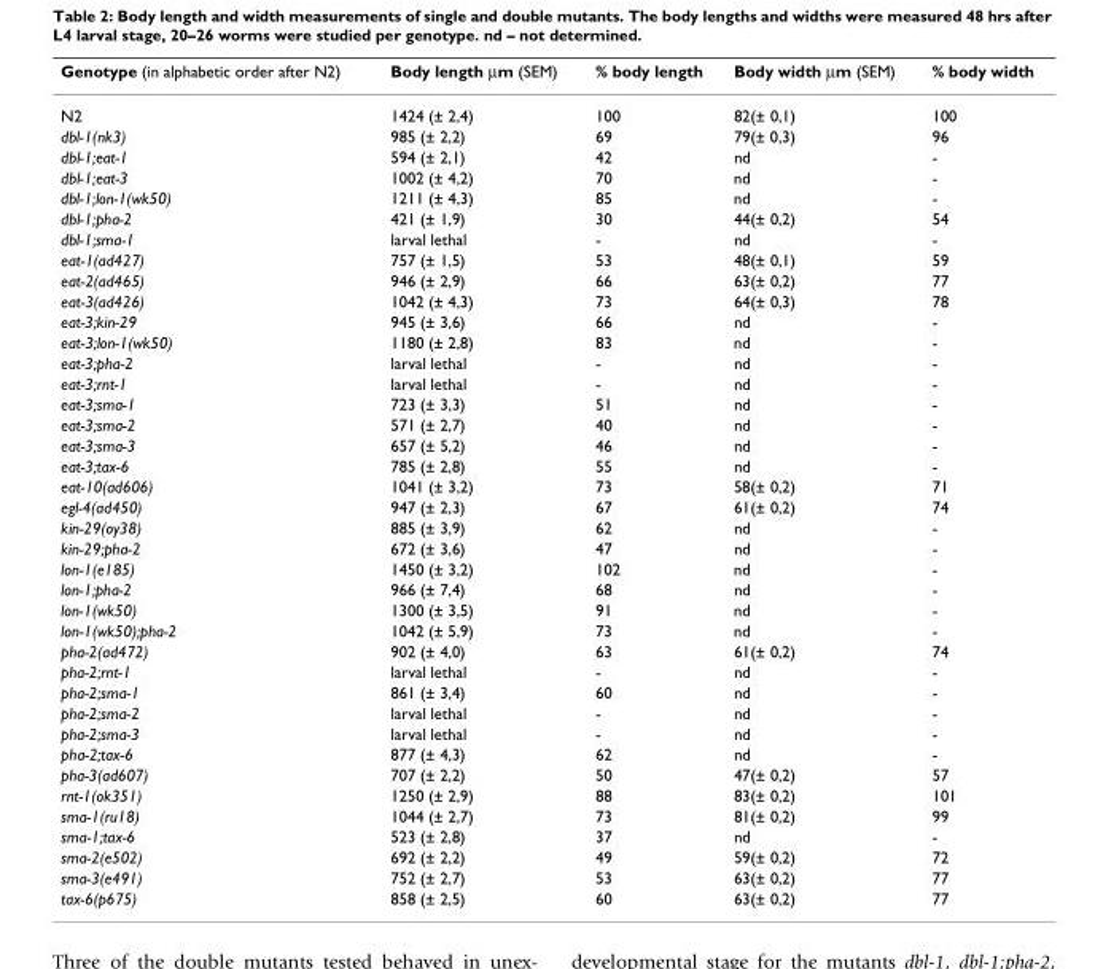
<table><thead><tr><td>Genotype (in alphabetic order after N2)</td><td>Body length μm (SEM)</td><td>% body length</td><td>Body width μm (SEM)</td><td>% body width</td></tr></thead><tbody><tr><td>N2</td><td>1424 (± 2,4)</td><td>100</td><td>82(± 0,1)</td><td>100</td></tr><tr><td>dbl-1(nk3)</td><td>985 (± 2,2)</td><td>69</td><td>79(± 0,3)</td><td>96</td></tr><tr><td>dbl-1;eat-1</td><td>594 (± 2,1)</td><td>42</td><td>nd</td><td>-</td></tr><tr><td>dbl-1;eat-3</td><td>1002 (± 4,2)</td><td>70</td><td>nd</td><td>-</td></tr><tr><td>dbl-1;lon-1(wk50)</td><td>1211 (± 4,3)</td><td>85</td><td>nd</td><td>-</td></tr><tr><td>dbl-1;pha-2</td><td>421 (± 1,9)</td><td>30</td><td>44(± 0,2)</td><td>54</td></tr><tr><td>dbl-1;sma-1</td><td>larval lethal</td><td>-</td><td>nd</td><td>-</td></tr><tr><td>eat-1(ad427)</td><td>757 (± 1,5)</td><td>53</td><td>48(± 0,1)</td><td>59</td></tr><tr><td>eat-2(ad465)</td><td>946 (± 2,9)</td><td>66</td><td>63(± 0,2)</td><td>77</td></tr><tr><td>eat-3(ad426)</td><td>1042 (± 4,3)</td><td>73</td><td>64(± 0,3)</td><td>78</td></tr><tr><td>eat-3;kin-29</td><td>945 (± 3,6)</td><td>66</td><td>nd</td><td>-</td></tr><tr><td>eat-3;lon-1(wk50)</td><td>1180 (± 2,8)</td><td>83</td><td>nd</td><td>-</td></tr><tr><td>eat-3;pha-2</td><td>larval lethal</td><td>-</td><td>nd</td><td>-</td></tr><tr><td>eat-3;rnt-1</td><td>larval lethal</td><td>-</td><td>nd</td><td>-</td></tr><tr><td>eat-3;sma-1</td><td>723 (± 3,3)</td><td>51</td><td>nd</td><td>-</td></tr><tr><td>eat-3;sma-2</td><td>571 (± 2,7)</td><td>40</td><td>nd</td><td>-</td></tr><tr><td>eat-3;sma-3</td><td>657 (± 5,2)</td><td>46</td><td>nd</td><td>-</td></tr><tr><td>eat-3;tax-6</td><td>785 (± 2,8)</td><td>55</td><td>nd</td><td>-</td></tr><tr><td>eat-10(ad606)</td><td>1041 (± 3,2)</td><td>73</td><td>58(± 0,2)</td><td>71</td></tr><tr><td>egl-4(ad450)</td><td>947 (± 2,3)</td><td>67</td><td>61(± 0,2)</td><td>74</td></tr><tr><td>kin-29(oy38)</td><td>885 (± 3,9)</td><td>62</td><td>nd</td><td>-</td></tr><tr><td>kin-29;pha-2</td><td>672 (± 3,6)</td><td>47</td><td>nd</td><td>-</td></tr><tr><td>lon-1(e185)</td><td>1450 (± 3,2)</td><td>102</td><td>nd</td><td>-</td></tr><tr><td>lon-1;pha-2</td><td>966 (± 7,4)</td><td>68</td><td>nd</td><td>-</td></tr><tr><td>lon-1(wk50)</td><td>1300 (± 3,5)</td><td>91</td><td>nd</td><td>-</td></tr><tr><td>lon-1(wk50);pha-2</td><td>1042 (± 5,9)</td><td>73</td><td>nd</td><td>-</td></tr><tr><td>pha-2(ad472)</td><td>902 (± 4,0)</td><td>63</td><td>61(± 0,2)</td><td>74</td></tr><tr><td>pha-2;rnt-1</td><td>larval lethal</td><td>-</td><td>nd</td><td>-</td></tr><tr><td>pha-2;sma-1</td><td>861 (± 3,4)</td><td>60</td><td>nd</td><td>-</td></tr><tr><td>pha-2;sma-2</td><td>larval lethal</td><td>-</td><td>nd</td><td>-</td></tr><tr><td>pha-2;sma-3</td><td>larval lethal</td><td>-</td><td>nd</td><td>-</td></tr><tr><td>pha-2;tax-6</td><td>877 (± 4,3)</td><td>62</td><td>nd</td><td>-</td></tr><tr><td>pha-3(ad607)</td><td>707 (± 2,2)</td><td>50</td><td>47(± 0,2)</td><td>57</td></tr><tr><td>rnt-1(ok351)</td><td>1250 (± 2,9)</td><td>88</td><td>83(± 0,2)</td><td>101</td></tr><tr><td>sma-1(ru18)</td><td>1044 (± 2,7)</td><td>73</td><td>81(± 0,2)</td><td>99</td></tr><tr><td>sma-1;tax-6</td><td>523 (± 2,8)</td><td>37</td><td>nd</td><td>-</td></tr><tr><td>sma-2(e502)</td><td>692 (± 2,2)</td><td>49</td><td>59(± 0,2)</td><td>72</td></tr><tr><td>sma-3(e491)</td><td>752 (± 2,7)</td><td>53</td><td>63(± 0,2)</td><td>77</td></tr><tr><td>tax-6(p675)</td><td>858 (± 2,5)</td><td>60</td><td>63(± 0,2)</td><td>77</td></tr></tbody></table>